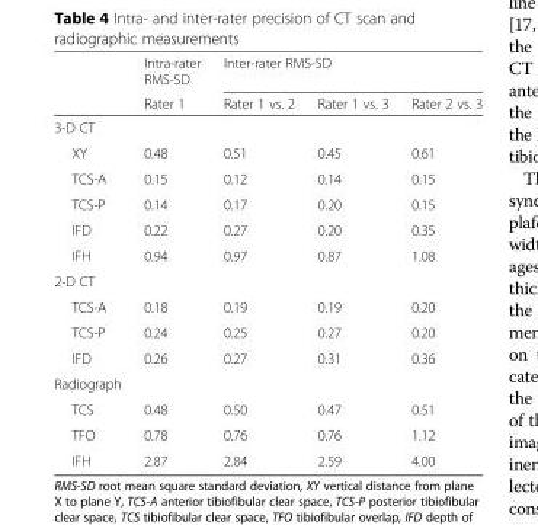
<table><thead><tr><td rowspan="2"></td><td rowspan="2">Intra-rater RMS-SD Rater 1</td><td colspan="3">Inter-rater RMS-SD</td></tr><tr><td>Rater 1 vs. 2</td><td>Rater 1 vs. 3</td><td>Rater 2 vs. 3</td></tr></thead><tbody><tr><td colspan="5">3-D CT</td></tr><tr><td>XY</td><td>0.48</td><td>0.51</td><td>0.45</td><td>0.61</td></tr><tr><td>TCS-A</td><td>0.15</td><td>0.12</td><td>0.14</td><td>0.15</td></tr><tr><td>TCS-P</td><td>0.14</td><td>0.17</td><td>0.20</td><td>0.15</td></tr><tr><td>IFD</td><td>0.22</td><td>0.27</td><td>0.20</td><td>0.35</td></tr><tr><td>IFH</td><td>0.94</td><td>0.97</td><td>0.87</td><td>1.08</td></tr><tr><td colspan="5">2-D CT</td></tr><tr><td>TCS-A</td><td>0.18</td><td>0.19</td><td>0.19</td><td>0.20</td></tr><tr><td>TCS-P</td><td>0.24</td><td>0.25</td><td>0.27</td><td>0.20</td></tr><tr><td>IFD</td><td>0.26</td><td>0.27</td><td>0.31</td><td>0.36</td></tr><tr><td colspan="5">Radiograph</td></tr><tr><td>TCS</td><td>0.48</td><td>0.50</td><td>0.47</td><td>0.51</td></tr><tr><td>TFO</td><td>0.78</td><td>0.76</td><td>0.76</td><td>1.12</td></tr><tr><td>IFH</td><td>2.87</td><td>2.84</td><td>2.59</td><td>4.00</td></tr></tbody></table>